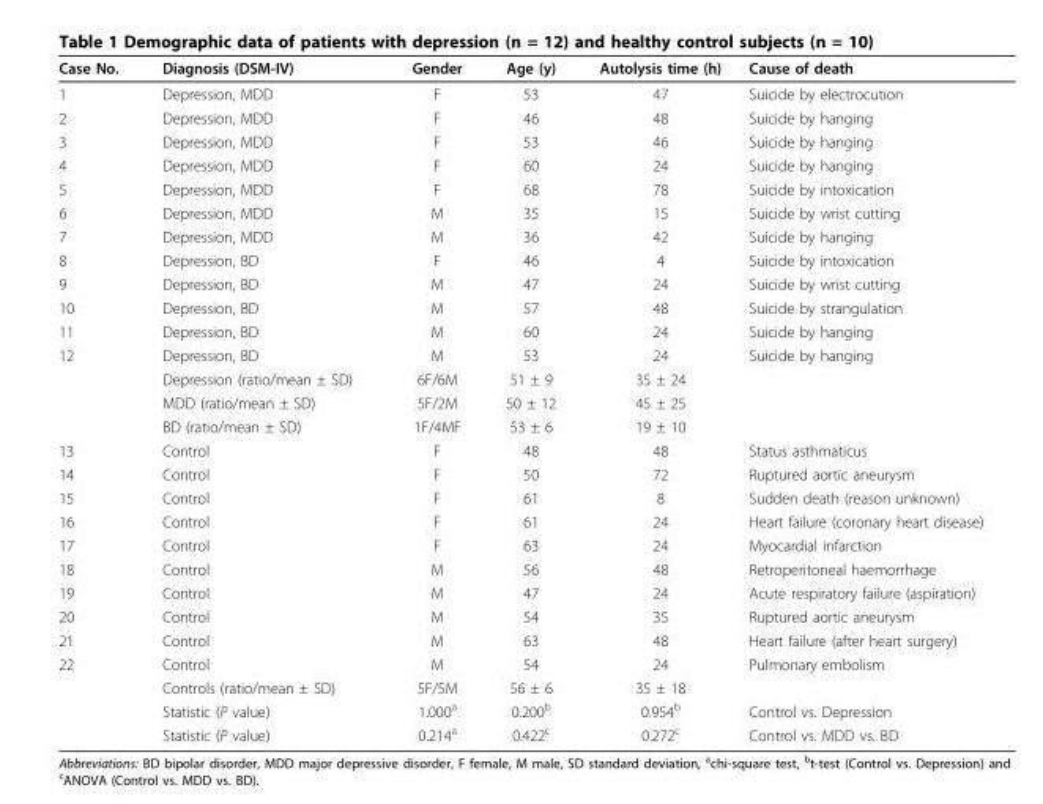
<table><thead><tr><td>Case No.</td><td>Diagnosis (DSM-IV)</td><td>Gender</td><td>Age (y)</td><td>Autolysis time (h)</td><td>Cause of death</td></tr></thead><tbody><tr><td>1</td><td>Depression, MDD</td><td>F</td><td>53</td><td>47</td><td>Suicide by electrocution</td></tr><tr><td>2</td><td>Depression, MDD</td><td>F</td><td>46</td><td>48</td><td>Suicide by hanging</td></tr><tr><td>3</td><td>Depression, MDD</td><td>F</td><td>53</td><td>46</td><td>Suicide by hanging</td></tr><tr><td>4</td><td>Depression, MDD</td><td>F</td><td>60</td><td>24</td><td>Suicide by hanging</td></tr><tr><td>5</td><td>Depression, MDD</td><td>F</td><td>68</td><td>78</td><td>Suicide by intoxication</td></tr><tr><td>6</td><td>Depression, MDD</td><td>M</td><td>35</td><td>15</td><td>Suicide by wrist cutting</td></tr><tr><td>7</td><td>Depression, MDD</td><td>M</td><td>36</td><td>42</td><td>Suicide by hanging</td></tr><tr><td>8</td><td>Depression, BD</td><td>F</td><td>46</td><td>4</td><td>Suicide by intoxication</td></tr><tr><td>9</td><td>Depression, BD</td><td>M</td><td>47</td><td>24</td><td>Suicide by wrist cutting</td></tr><tr><td>10</td><td>Depression, BD</td><td>M</td><td>57</td><td>48</td><td>Suicide by strangulation</td></tr><tr><td>11</td><td>Depression, BD</td><td>M</td><td>60</td><td>24</td><td>Suicide by hanging</td></tr><tr><td rowspan="4">12</td><td>Depression, BD</td><td>M</td><td>53</td><td>24</td><td>Suicide by hanging</td></tr><tr><td>Depression (ratio/mean ± SD)</td><td>6F/6M</td><td>51 ± 9</td><td>35 ± 24</td><td></td></tr><tr><td>MDD (ratio/mean ± SD)</td><td>5F/2M</td><td>50 ± 12</td><td>45 ± 25</td><td></td></tr><tr><td>BD (ratio/mean ± SD)</td><td>1F/4MF</td><td>53 ± 6</td><td>19 ± 10</td><td></td></tr><tr><td>13</td><td>Control</td><td>F</td><td>48</td><td>48</td><td>Status asthmaticus</td></tr><tr><td>14</td><td>Control</td><td>F</td><td>50</td><td>72</td><td>Ruptured aortic aneurysm</td></tr><tr><td>15</td><td>Control</td><td>F</td><td>61</td><td>8</td><td>Sudden death (reason unknown)</td></tr><tr><td>16</td><td>Control</td><td>F</td><td>61</td><td>24</td><td>Heart failure (coronary heart disease)</td></tr><tr><td>17</td><td>Control</td><td>F</td><td>63</td><td>24</td><td>Myocardial infarction</td></tr><tr><td>18</td><td>Control</td><td>M</td><td>56</td><td>48</td><td>Retroperitoneal haemorrhage</td></tr><tr><td>19</td><td>Control</td><td>M</td><td>47</td><td>24</td><td>Acute respiratory failure (aspiration)</td></tr><tr><td>20</td><td>Control</td><td>M</td><td>54</td><td>35</td><td>Ruptured aortic aneurysm</td></tr><tr><td>21</td><td>Control</td><td>M</td><td>63</td><td>48</td><td>Heart failure (after heart surgery)</td></tr><tr><td rowspan="4">22</td><td>Control</td><td>M</td><td>54</td><td>24</td><td>Pulmonary embolism</td></tr><tr><td>Controls (ratio/mean ± SD)</td><td>5F/5M</td><td>56 ± 6</td><td>35 ± 18</td><td></td></tr><tr><td>Statistic (P value)</td><td>1.000<sup>a</sup></td><td>0.200<sup>b</sup></td><td>0.954<sup>b</sup></td><td>Control vs. Depression</td></tr><tr><td>Statistic (P value)</td><td>0.214<sup>a</sup></td><td>0.422<sup>c</sup></td><td>0.272<sup>c</sup></td><td>Control vs. MDD vs. BD</td></tr></tbody></table>